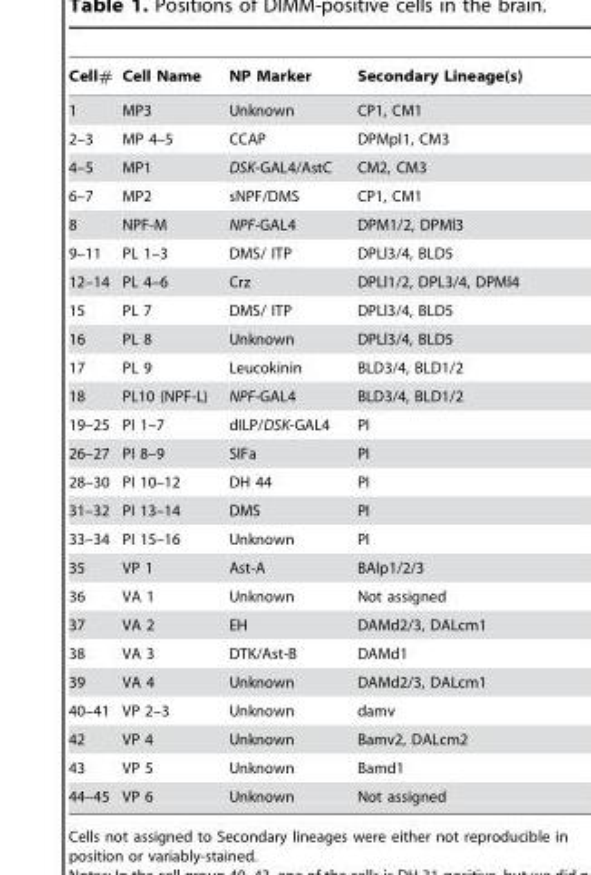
<table><thead><tr><td>Cell#</td><td>Cell Name</td><td>NP Marker</td><td>Secondary Lineage(s)</td></tr></thead><tbody><tr><td>1</td><td>MP3</td><td>Unknown</td><td>CP1, CM1</td></tr><tr><td>2–3</td><td>MP 4–5</td><td>CCAP</td><td>DPMpl1, CM3</td></tr><tr><td>4–5</td><td>MP1</td><td>DSK-GAL4/AstC</td><td>CM2, CM3</td></tr><tr><td>6–7</td><td>MP2</td><td>sNPF/DMS</td><td>CP1, CM1</td></tr><tr><td>8</td><td>NPF-M</td><td>NPF-GAL4</td><td>DPM1/2, DPMl3</td></tr><tr><td>9–11</td><td>PL 1–3</td><td>DMS/ ITP</td><td>DPLl3/4, BLD5</td></tr><tr><td>12–14</td><td>PL 4–6</td><td>Crz</td><td>DPLl1/2, DPL3/4, DPMl4</td></tr><tr><td>15</td><td>PL 7</td><td>DMS/ ITP</td><td>DPLl3/4, BLD5</td></tr><tr><td>16</td><td>PL 8</td><td>Unknown</td><td>DPLl3/4, BLD5</td></tr><tr><td>17</td><td>PL 9</td><td>Leucokinin</td><td>BLD3/4, BLD1/2</td></tr><tr><td>18</td><td>PL10 (NPF-L)</td><td>NPF-GAL4</td><td>BLD3/4, BLD1/2</td></tr><tr><td>19–25</td><td>PI 1–7</td><td>dILP/DSK-GAL4</td><td>PI</td></tr><tr><td>26–27</td><td>PI 8–9</td><td>SIFa</td><td>PI</td></tr><tr><td>28–30</td><td>PI 10–12</td><td>DH 44</td><td>PI</td></tr><tr><td>31–32</td><td>PI 13–14</td><td>DMS</td><td>PI</td></tr><tr><td>33–34</td><td>PI 15–16</td><td>Unknown</td><td>PI</td></tr><tr><td>35</td><td>VP 1</td><td>Ast-A</td><td>BAlp1/2/3</td></tr><tr><td>36</td><td>VA 1</td><td>Unknown</td><td>Not assigned</td></tr><tr><td>37</td><td>VA 2</td><td>EH</td><td>DAMd2/3, DALcm1</td></tr><tr><td>38</td><td>VA 3</td><td>DTK/Ast-B</td><td>DAMd1</td></tr><tr><td>39</td><td>VA 4</td><td>Unknown</td><td>DAMd2/3, DALcm1</td></tr><tr><td>40–41</td><td>VP 2–3</td><td>Unknown</td><td>damv</td></tr><tr><td>42</td><td>VP 4</td><td>Unknown</td><td>Bamv2, DALcm2</td></tr><tr><td>43</td><td>VP 5</td><td>Unknown</td><td>Bamd1</td></tr><tr><td>44–45</td><td>VP 6</td><td>Unknown</td><td>Not assigned</td></tr></tbody></table>